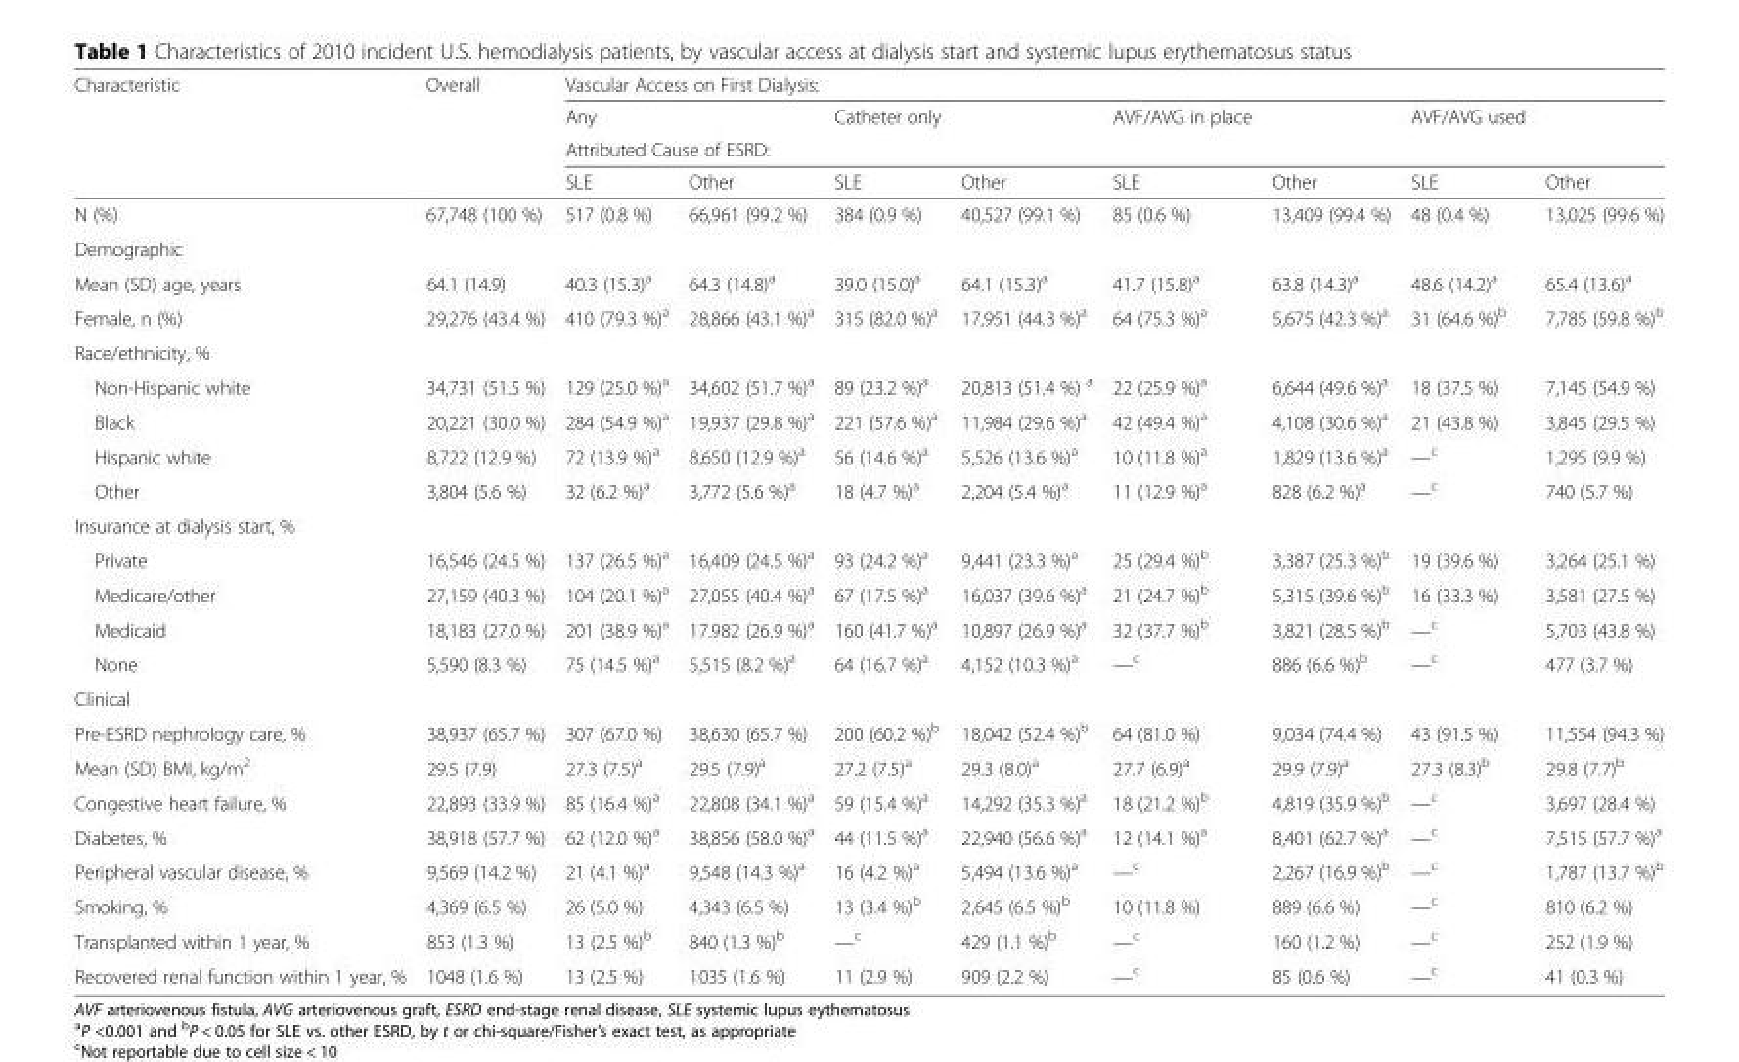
<table><thead><tr><td rowspan="4">Characteristic</td><td rowspan="4">Overall</td><td colspan="8">Vascular Access on First Dialysis:</td></tr><tr><td>Any</td><td></td><td>Catheter only</td><td></td><td>AVF/AVG in place</td><td></td><td>AVF/AVG used</td><td></td></tr><tr><td colspan="8">Attributed Cause of ESRD:</td></tr><tr><td>SLE</td><td>Other</td><td>SLE</td><td>Other</td><td>SLE</td><td>Other</td><td>SLE</td><td>Other</td></tr></thead><tbody><tr><td>N (%)</td><td>67,748 (100 %)</td><td>517 (0.8 %)</td><td>66,961 (99.2 %)</td><td>384 (0.9 %)</td><td>40,527 (99.1 %)</td><td>85 (0.6 %)</td><td>13,409 (99.4 %)</td><td>48 (0.4 %)</td><td>13,025 (99.6 %)</td></tr><tr><td colspan="10">Demographic</td></tr><tr><td>Mean (SD) age, years</td><td>64.1 (14.9)</td><td>40.3 (15.3)<sup>a</sup></td><td>64.3 (14.8)<sup>a</sup></td><td>39.0 (15.0)<sup>a</sup></td><td>64.1 (15.3)<sup>a</sup></td><td>41.7 (15.8)<sup>a</sup></td><td>63.8 (14.3)<sup>a</sup></td><td>48.6 (14.2)<sup>a</sup></td><td>65.4 (13.6)<sup>a</sup></td></tr><tr><td>Female, n (%)</td><td>29,276 (43.4 %)</td><td>410 (79.3 %)<sup>a</sup></td><td>28,866 (43.1 %)<sup>a</sup></td><td>315 (82.0 %)<sup>a</sup></td><td>17,951 (44.3 %)<sup>a</sup></td><td>64 (75.3 %)<sup>a</sup></td><td>5,675 (42.3 %)<sup>a</sup></td><td>31 (64.6 %)<sup>b</sup></td><td>7,785 (59.8 %)<sup>b</sup></td></tr><tr><td colspan="10">Race/ethnicity, %</td></tr><tr><td>Non-Hispanic white</td><td>34,731 (51.5 %)</td><td>129 (25.0 %)<sup>a</sup></td><td>34,602 (51.7 %)<sup>a</sup></td><td>89 (23.2 %)<sup>a</sup></td><td>20,813 (51.4 %) <sup>a</sup></td><td>22 (25.9 %)<sup>a</sup></td><td>6,644 (49.6 %)<sup>a</sup></td><td>18 (37.5 %)</td><td>7,145 (54.9 %)</td></tr><tr><td>Black</td><td>20,221 (30.0 %)</td><td>284 (54.9 %)<sup>a</sup></td><td>19,937 (29.8 %)<sup>a</sup></td><td>221 (57.6 %)<sup>a</sup></td><td>11,984 (29.6 %)<sup>a</sup></td><td>42 (49.4 %)<sup>a</sup></td><td>4,108 (30.6 %)<sup>a</sup></td><td>21 (43.8 %)</td><td>3,845 (29.5 %)</td></tr><tr><td>Hispanic white</td><td>8,722 (12.9 %)</td><td>72 (13.9 %)<sup>a</sup></td><td>8,650 (12.9 %)<sup>a</sup></td><td>56 (14.6 %)<sup>a</sup></td><td>5,526 (13.6 %)<sup>a</sup></td><td>10 (11.8 %)<sup>a</sup></td><td>1,829 (13.6 %)<sup>a</sup></td><td>—<sup>c</sup></td><td>1,295 (9.9 %)</td></tr><tr><td>Other</td><td>3,804 (5.6 %)</td><td>32 (6.2 %)<sup>a</sup></td><td>3,772 (5.6 %)<sup>a</sup></td><td>18 (4.7 %)<sup>a</sup></td><td>2,204 (5.4 %)<sup>a</sup></td><td>11 (12.9 %)<sup>a</sup></td><td>828 (6.2 %)<sup>a</sup></td><td>—<sup>c</sup></td><td>740 (5.7 %)</td></tr><tr><td colspan="10">Insurance at dialysis start, %</td></tr><tr><td>Private</td><td>16,546 (24.5 %)</td><td>137 (26.5 %)<sup>a</sup></td><td>16,409 (24.5 %)<sup>a</sup></td><td>93 (24.2 %)<sup>a</sup></td><td>9,441 (23.3 %)<sup>a</sup></td><td>25 (29.4 %)<sup>b</sup></td><td>3,387 (25.3 %)<sup>b</sup></td><td>19 (39.6 %)</td><td>3,264 (25.1 %)</td></tr><tr><td>Medicare/other</td><td>27,159 (40.3 %)</td><td>104 (20.1 %)<sup>a</sup></td><td>27,055 (40.4 %)<sup>a</sup></td><td>67 (17.5 %)<sup>a</sup></td><td>16,037 (39.6 %)<sup>a</sup></td><td>21 (24.7 %)<sup>b</sup></td><td>5,315 (39.6 %)<sup>b</sup></td><td>16 (33.3 %)</td><td>3,581 (27.5 %)</td></tr><tr><td>Medicaid</td><td>18,183 (27.0 %)</td><td>201 (38.9 %)<sup>a</sup></td><td>17.982 (26.9 %)<sup>a</sup></td><td>160 (41.7 %)<sup>a</sup></td><td>10,897 (26.9 %)<sup>a</sup></td><td>32 (37.7 %)<sup>b</sup></td><td>3,821 (28.5 %)<sup>b</sup></td><td>—<sup>c</sup></td><td>5,703 (43.8 %)</td></tr><tr><td>None</td><td>5,590 (8.3 %)</td><td>75 (14.5 %)<sup>a</sup></td><td>5,515 (8.2 %)<sup>a</sup></td><td>64 (16.7 %)<sup>a</sup></td><td>4,152 (10.3 %)<sup>a</sup></td><td>—<sup>c</sup></td><td>886 (6.6 %)<sup>b</sup></td><td>—<sup>c</sup></td><td>477 (3.7 %)</td></tr><tr><td colspan="10">Clinical</td></tr><tr><td>Pre-ESRD nephrology care, %</td><td>38,937 (65.7 %)</td><td>307 (67.0 %)</td><td>38,630 (65.7 %)</td><td>200 (60.2 %)<sup>b</sup></td><td>18,042 (52.4 %)<sup>b</sup></td><td>64 (81.0 %)</td><td>9,034 (74.4 %)</td><td>43 (91.5 %)</td><td>11,554 (94.3 %)</td></tr><tr><td>Mean (SD) BMI, kg/m<sup>2</sup></td><td>29.5 (7.9)</td><td>27.3 (7.5)<sup>a</sup></td><td>29.5 (7.9)<sup>a</sup></td><td>27.2 (7.5)<sup>a</sup></td><td>29.3 (8.0)<sup>a</sup></td><td>27.7 (6.9)<sup>a</sup></td><td>29.9 (7.9)<sup>a</sup></td><td>27.3 (8.3)<sup>b</sup></td><td>29.8 (7.7)<sup>b</sup></td></tr><tr><td>Congestive heart failure, %</td><td>22,893 (33.9 %)</td><td>85 (16.4 %)<sup>a</sup></td><td>22,808 (34.1 %)<sup>a</sup></td><td>59 (15.4 %)<sup>a</sup></td><td>14,292 (35.3 %)<sup>a</sup></td><td>18 (21.2 %)<sup>b</sup></td><td>4,819 (35.9 %)<sup>b</sup></td><td>—<sup>c</sup></td><td>3,697 (28.4 %)</td></tr><tr><td>Diabetes, %</td><td>38,918 (57.7 %)</td><td>62 (12.0 %)<sup>a</sup></td><td>38,856 (58.0 %)<sup>a</sup></td><td>44 (11.5 %)<sup>a</sup></td><td>22,940 (56.6 %)<sup>a</sup></td><td>12 (14.1 %)<sup>a</sup></td><td>8,401 (62.7 %)<sup>a</sup></td><td>—<sup>c</sup></td><td>7,515 (57.7 %)<sup>a</sup></td></tr><tr><td>Peripheral vascular disease, %</td><td>9,569 (14.2 %)</td><td>21 (4.1 %)<sup>a</sup></td><td>9,548 (14.3 %)<sup>a</sup></td><td>16 (4.2 %)<sup>a</sup></td><td>5,494 (13.6 %)<sup>a</sup></td><td>—<sup>c</sup></td><td>2,267 (16.9 %)<sup>b</sup></td><td>—<sup>c</sup></td><td>1,787 (13.7 %)<sup>b</sup></td></tr><tr><td>Smoking, %</td><td>4,369 (6.5 %)</td><td>26 (5.0 %)</td><td>4,343 (6.5 %)</td><td>13 (3.4 %)<sup>b</sup></td><td>2,645 (6.5 %)<sup>b</sup></td><td>10 (11.8 %)</td><td>889 (6.6 %)</td><td>—<sup>c</sup></td><td>810 (6.2 %)</td></tr><tr><td>Transplanted within 1 year, %</td><td>853 (1.3 %)</td><td>13 (2.5 %)<sup>b</sup></td><td>840 (1.3 %)<sup>b</sup></td><td>—<sup>c</sup></td><td>429 (1.1 %)<sup>b</sup></td><td>—<sup>c</sup></td><td>160 (1.2 %)</td><td>—<sup>c</sup></td><td>252 (1.9 %)</td></tr><tr><td>Recovered renal function within 1 year, %</td><td>1048 (1.6 %)</td><td>13 (2.5 %)</td><td>1035 (1.6 %)</td><td>11 (2.9 %)</td><td>909 (2.2 %)</td><td>—<sup>c</sup></td><td>85 (0.6 %)</td><td>—<sup>c</sup></td><td>41 (0.3 %)</td></tr></tbody></table>